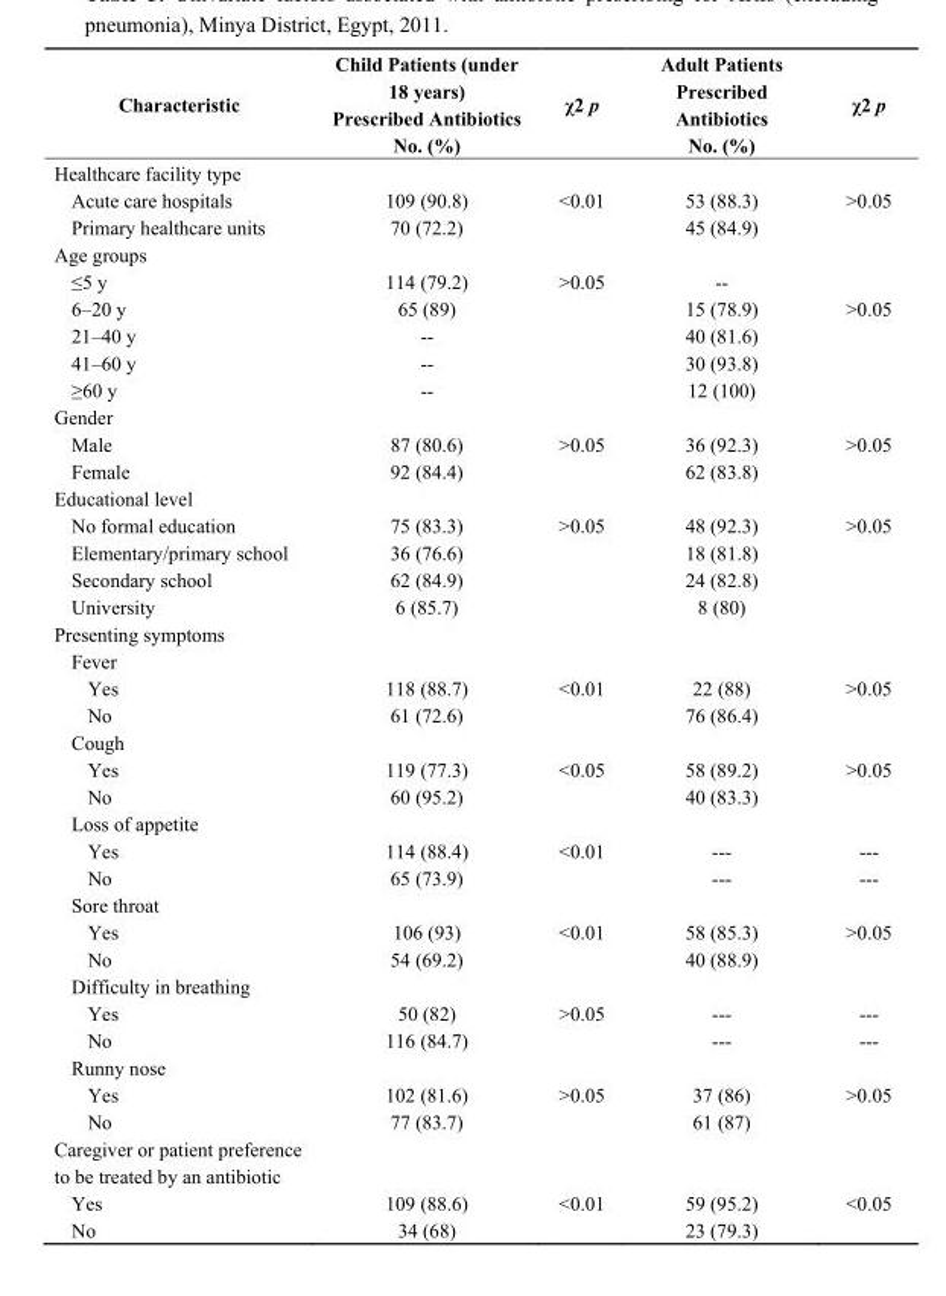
<table><thead><tr><td>Characteristic</td><td>Child Patients (under 18 years) Prescribed Antibiotics No. (%)</td><td>χ2 p</td><td>Adult Patients Prescribed Antibiotics No. (%)</td><td>χ2 p</td></tr></thead><tbody><tr><td colspan="5">Healthcare facility type</td></tr><tr><td>Acute care hospitals</td><td>109 (90.8)</td><td>&lt;0.01</td><td>53 (88.3)</td><td>&gt;0.05</td></tr><tr><td>Primary healthcare units</td><td>70 (72.2)</td><td></td><td>45 (84.9)</td><td></td></tr><tr><td colspan="5">Age groups</td></tr><tr><td>≤5 y</td><td>114 (79.2)</td><td>&gt;0.05</td><td>--</td><td></td></tr><tr><td>6–20 y</td><td>65 (89)</td><td></td><td>15 (78.9)</td><td>&gt;0.05</td></tr><tr><td>21–40 y</td><td>--</td><td></td><td>40 (81.6)</td><td></td></tr><tr><td>41–60 y</td><td>--</td><td></td><td>30 (93.8)</td><td></td></tr><tr><td>≥60 y</td><td>--</td><td></td><td>12 (100)</td><td></td></tr><tr><td colspan="5">Gender</td></tr><tr><td>Male</td><td>87 (80.6)</td><td>&gt;0.05</td><td>36 (92.3)</td><td>&gt;0.05</td></tr><tr><td>Female</td><td>92 (84.4)</td><td></td><td>62 (83.8)</td><td></td></tr><tr><td colspan="5">Educational level</td></tr><tr><td>No formal education</td><td>75 (83.3)</td><td>&gt;0.05</td><td>48 (92.3)</td><td>&gt;0.05</td></tr><tr><td>Elementary/primary school</td><td>36 (76.6)</td><td></td><td>18 (81.8)</td><td></td></tr><tr><td>Secondary school</td><td>62 (84.9)</td><td></td><td>24 (82.8)</td><td></td></tr><tr><td>University</td><td>6 (85.7)</td><td></td><td>8 (80)</td><td></td></tr><tr><td colspan="5">Presenting symptoms</td></tr><tr><td colspan="5">Fever</td></tr><tr><td>Yes</td><td>118 (88.7)</td><td>&lt;0.01</td><td>22 (88)</td><td>&gt;0.05</td></tr><tr><td>No</td><td>61 (72.6)</td><td></td><td>76 (86.4)</td><td></td></tr><tr><td colspan="5">Cough</td></tr><tr><td>Yes</td><td>119 (77.3)</td><td>&lt;0.05</td><td>58 (89.2)</td><td>&gt;0.05</td></tr><tr><td>No</td><td>60 (95.2)</td><td></td><td>40 (83.3)</td><td></td></tr><tr><td colspan="5">Loss of appetite</td></tr><tr><td>Yes</td><td>114 (88.4)</td><td>&lt;0.01</td><td>---</td><td>---</td></tr><tr><td>No</td><td>65 (73.9)</td><td></td><td>---</td><td>---</td></tr><tr><td colspan="5">Sore throat</td></tr><tr><td>Yes</td><td>106 (93)</td><td>&lt;0.01</td><td>58 (85.3)</td><td>&gt;0.05</td></tr><tr><td>No</td><td>54 (69.2)</td><td></td><td>40 (88.9)</td><td></td></tr><tr><td colspan="5">Difficulty in breathing</td></tr><tr><td>Yes</td><td>50 (82)</td><td>&gt;0.05</td><td>---</td><td>---</td></tr><tr><td>No</td><td>116 (84.7)</td><td></td><td>---</td><td>---</td></tr><tr><td colspan="5">Runny nose</td></tr><tr><td>Yes</td><td>102 (81.6)</td><td>&gt;0.05</td><td>37 (86)</td><td>&gt;0.05</td></tr><tr><td>No</td><td>77 (83.7)</td><td></td><td>61 (87)</td><td></td></tr><tr><td colspan="5">Caregiver or patient preference to be treated by an antibiotic</td></tr><tr><td>Yes</td><td>109 (88.6)</td><td>&lt;0.01</td><td>59 (95.2)</td><td>&lt;0.05</td></tr><tr><td>No</td><td>34 (68)</td><td></td><td>23 (79.3)</td><td></td></tr></tbody></table>